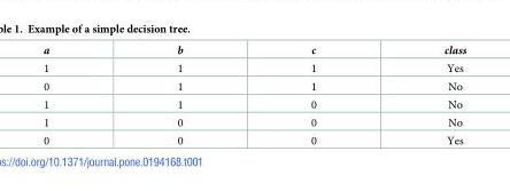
<table><thead><tr><td>a</td><td>b</td><td>c</td><td>class</td></tr></thead><tbody><tr><td>1</td><td>1</td><td>1</td><td>Yes</td></tr><tr><td>0</td><td>1</td><td>1</td><td>No</td></tr><tr><td>1</td><td>1</td><td>0</td><td>No</td></tr><tr><td>1</td><td>0</td><td>0</td><td>No</td></tr><tr><td>0</td><td>0</td><td>0</td><td>Yes</td></tr></tbody></table>